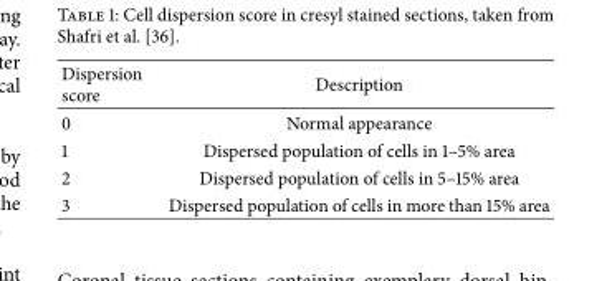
<table><thead><tr><td>Dispersion score</td><td>Description</td></tr></thead><tbody><tr><td>0</td><td>Normal appearance</td></tr><tr><td>1</td><td>Dispersed population of cells in 1–5% area</td></tr><tr><td>2</td><td>Dispersed population of cells in 5–15% area</td></tr><tr><td>3</td><td>Dispersed population of cells in more than 15% area</td></tr></tbody></table>